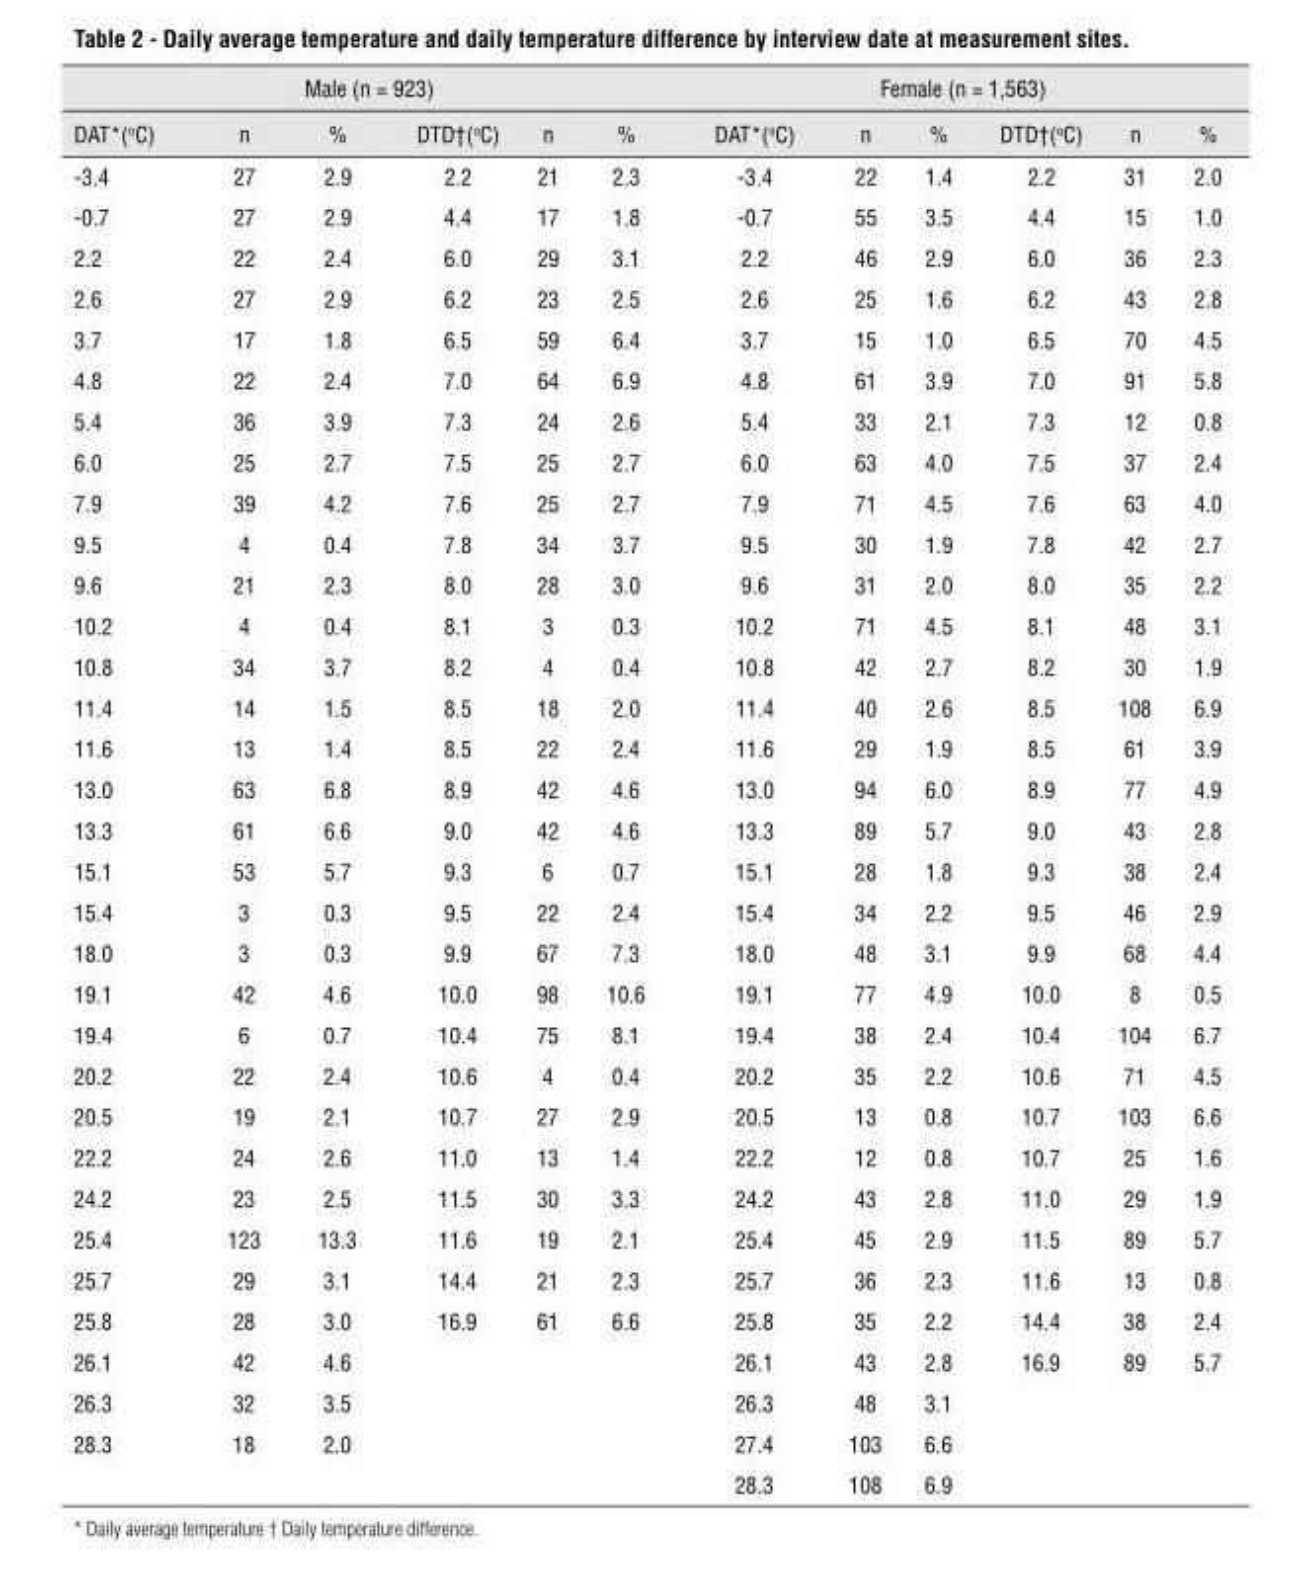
<table><thead><tr><td colspan="6">Male (n = 923)</td><td colspan="6">Female (n = 1,563)</td></tr><tr><td>DAT*(<sup>o</sup>C)</td><td>n</td><td>%</td><td>DTD†(<sup>o</sup>C)</td><td>n</td><td>%</td><td>DAT*(<sup>o</sup>C)</td><td>n</td><td>%</td><td>DTD†(<sup>o</sup>C)</td><td>n</td><td>%</td></tr></thead><tbody><tr><td>-3.4</td><td>27</td><td>2.9</td><td>2.2</td><td>21</td><td>2.3</td><td>-3.4</td><td>22</td><td>1.4</td><td>2.2</td><td>31</td><td>2.0</td></tr><tr><td>-0.7</td><td>27</td><td>2.9</td><td>4.4</td><td>17</td><td>1.8</td><td>-0.7</td><td>55</td><td>3.5</td><td>4.4</td><td>15</td><td>1.0</td></tr><tr><td>2.2</td><td>22</td><td>2.4</td><td>6.0</td><td>29</td><td>3.1</td><td>2.2</td><td>46</td><td>2.9</td><td>6.0</td><td>36</td><td>2.3</td></tr><tr><td>2.6</td><td>27</td><td>2.9</td><td>6.2</td><td>23</td><td>2.5</td><td>2.6</td><td>25</td><td>1.6</td><td>6.2</td><td>43</td><td>2.8</td></tr><tr><td>3.7</td><td>17</td><td>1.8</td><td>6.5</td><td>59</td><td>6.4</td><td>3.7</td><td>15</td><td>1.0</td><td>6.5</td><td>70</td><td>4.5</td></tr><tr><td>4.8</td><td>22</td><td>2.4</td><td>7.0</td><td>64</td><td>6.9</td><td>4.8</td><td>61</td><td>3.9</td><td>7.0</td><td>91</td><td>5.8</td></tr><tr><td>5.4</td><td>36</td><td>3.9</td><td>7.3</td><td>24</td><td>2.6</td><td>5.4</td><td>33</td><td>2.1</td><td>7.3</td><td>12</td><td>0.8</td></tr><tr><td>6.0</td><td>25</td><td>2.7</td><td>7.5</td><td>25</td><td>2.7</td><td>6.0</td><td>63</td><td>4.0</td><td>7.5</td><td>37</td><td>2.4</td></tr><tr><td>7.9</td><td>39</td><td>4.2</td><td>7.6</td><td>25</td><td>2.7</td><td>7.9</td><td>71</td><td>4.5</td><td>7.6</td><td>63</td><td>4.0</td></tr><tr><td>9.5</td><td>4</td><td>0.4</td><td>7.8</td><td>34</td><td>3.7</td><td>9.5</td><td>30</td><td>1.9</td><td>7.8</td><td>42</td><td>2.7</td></tr><tr><td>9.6</td><td>21</td><td>2.3</td><td>8.0</td><td>28</td><td>3.0</td><td>9.6</td><td>31</td><td>2.0</td><td>8.0</td><td>35</td><td>2.2</td></tr><tr><td>10.2</td><td>4</td><td>0.4</td><td>8.1</td><td>3</td><td>0.3</td><td>10.2</td><td>71</td><td>4.5</td><td>8.1</td><td>48</td><td>3.1</td></tr><tr><td>10.8</td><td>34</td><td>3.7</td><td>8.2</td><td>4</td><td>0.4</td><td>10.8</td><td>42</td><td>2.7</td><td>8.2</td><td>30</td><td>1.9</td></tr><tr><td>11.4</td><td>14</td><td>1.5</td><td>8.5</td><td>18</td><td>2.0</td><td>11.4</td><td>40</td><td>2.6</td><td>8.5</td><td>108</td><td>6.9</td></tr><tr><td>11.6</td><td>13</td><td>1.4</td><td>8.5</td><td>22</td><td>2.4</td><td>11.6</td><td>29</td><td>1.9</td><td>8.5</td><td>61</td><td>3.9</td></tr><tr><td>13.0</td><td>63</td><td>6.8</td><td>8.9</td><td>42</td><td>4.6</td><td>13.0</td><td>94</td><td>6.0</td><td>8.9</td><td>77</td><td>4.9</td></tr><tr><td>13.3</td><td>61</td><td>6.6</td><td>9.0</td><td>42</td><td>4.6</td><td>13.3</td><td>89</td><td>5.7</td><td>9.0</td><td>43</td><td>2.8</td></tr><tr><td>15.1</td><td>53</td><td>5.7</td><td>9.3</td><td>6</td><td>0.7</td><td>15.1</td><td>28</td><td>1.8</td><td>9.3</td><td>38</td><td>2.4</td></tr><tr><td>15.4</td><td>3</td><td>0.3</td><td>9.5</td><td>22</td><td>2.4</td><td>15.4</td><td>34</td><td>2.2</td><td>9.5</td><td>46</td><td>2.9</td></tr><tr><td>18.0</td><td>3</td><td>0.3</td><td>9.9</td><td>67</td><td>7.3</td><td>18.0</td><td>48</td><td>3.1</td><td>9.9</td><td>68</td><td>4.4</td></tr><tr><td>19.1</td><td>42</td><td>4.6</td><td>10.0</td><td>98</td><td>10.6</td><td>19.1</td><td>77</td><td>4.9</td><td>10.0</td><td>8</td><td>0.5</td></tr><tr><td>19.4</td><td>6</td><td>0.7</td><td>10.4</td><td>75</td><td>8.1</td><td>19.4</td><td>38</td><td>2.4</td><td>10.4</td><td>104</td><td>6.7</td></tr><tr><td>20.2</td><td>22</td><td>2.4</td><td>10.6</td><td>4</td><td>0.4</td><td>20.2</td><td>35</td><td>2.2</td><td>10.6</td><td>71</td><td>4.5</td></tr><tr><td>20.5</td><td>19</td><td>2.1</td><td>10.7</td><td>27</td><td>2.9</td><td>20.5</td><td>13</td><td>0.8</td><td>10.7</td><td>103</td><td>6.6</td></tr><tr><td>22.2</td><td>24</td><td>2.6</td><td>11.0</td><td>13</td><td>1.4</td><td>22.2</td><td>12</td><td>0.8</td><td>10.7</td><td>25</td><td>1.6</td></tr><tr><td>24.2</td><td>23</td><td>2.5</td><td>11.5</td><td>30</td><td>3.3</td><td>24.2</td><td>43</td><td>2.8</td><td>11.0</td><td>29</td><td>1.9</td></tr><tr><td>25.4</td><td>123</td><td>13.3</td><td>11.6</td><td>19</td><td>2.1</td><td>25.4</td><td>45</td><td>2.9</td><td>11.5</td><td>89</td><td>5.7</td></tr><tr><td>25.7</td><td>29</td><td>3.1</td><td>14.4</td><td>21</td><td>2.3</td><td>25.7</td><td>36</td><td>2.3</td><td>11.6</td><td>13</td><td>0.8</td></tr><tr><td>25.8</td><td>28</td><td>3.0</td><td>16.9</td><td>61</td><td>6.6</td><td>25.8</td><td>35</td><td>2.2</td><td>14.4</td><td>38</td><td>2.4</td></tr><tr><td>26.1</td><td>42</td><td>4.6</td><td></td><td></td><td></td><td>26.1</td><td>43</td><td>2.8</td><td>16.9</td><td>89</td><td>5.7</td></tr><tr><td>26.3</td><td>32</td><td>3.5</td><td></td><td></td><td></td><td>26.3</td><td>48</td><td>3.1</td><td></td><td></td><td></td></tr><tr><td rowspan="2">28.3</td><td>18</td><td>2.0</td><td></td><td></td><td></td><td>27.4</td><td>103</td><td>6.6</td><td></td><td></td><td></td></tr><tr><td></td><td></td><td></td><td></td><td></td><td>28.3</td><td>108</td><td>6.9</td><td></td><td></td><td></td></tr></tbody></table>